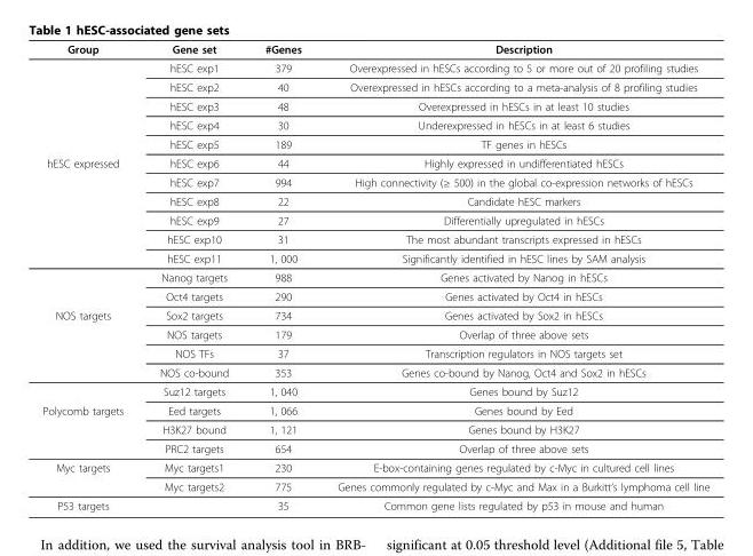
<table><thead><tr><td>Group</td><td>Gene set</td><td>#Genes</td><td>Description</td></tr></thead><tbody><tr><td></td><td>hESC exp1</td><td>379</td><td>Overexpressed in hESCs according to 5 or more out of 20 profiling studies</td></tr><tr><td></td><td>hESC exp2</td><td>40</td><td>Overexpressed in hESCs according to a meta-analysis of 8 profiling studies</td></tr><tr><td></td><td>hESC exp3</td><td>48</td><td>Overexpressed in hESCs in at least 10 studies</td></tr><tr><td></td><td>hESC exp4</td><td>30</td><td>Underexpressed in hESCs in at least 6 studies</td></tr><tr><td></td><td>hESC exp5</td><td>189</td><td>TF genes in hESCs</td></tr><tr><td rowspan="8">hESC expressed</td><td>hESC exp6</td><td>44</td><td>Highly expressed in undifferentiated hESCs</td></tr><tr><td>hESC exp7</td><td>994</td><td>High connectivity (≥ 500) in the global co-expression networks of hESCs</td></tr><tr><td>hESC exp8</td><td>22</td><td>Candidate hESC markers</td></tr><tr><td>hESC exp9</td><td>27</td><td>Differentially upregulated in hESCs</td></tr><tr><td>hESC exp10</td><td>31</td><td>The most abundant transcripts expressed in hESCs</td></tr><tr><td>hESC exp11</td><td>1, 000</td><td>Significantly identified in hESC lines by SAM analysis</td></tr><tr><td>Nanog targets</td><td>988</td><td>Genes activated by Nanog in hESCs</td></tr><tr><td>Oct4 targets</td><td>290</td><td>Genes activated by Oct4 in hESCs</td></tr><tr><td rowspan="5">NOS targets</td><td>Sox2 targets</td><td>734</td><td>Genes activated by Sox2 in hESCs</td></tr><tr><td>NOS targets</td><td>179</td><td>Overlap of three above sets</td></tr><tr><td>NOS TFs</td><td>37</td><td>Transcription regulators in NOS targets set</td></tr><tr><td>NOS co-bound</td><td>353</td><td>Genes co-bound by Nanog, Oct4 and Sox2 in hESCs</td></tr><tr><td>Suz12 targets</td><td>1, 040</td><td>Genes bound by Suz12</td></tr><tr><td rowspan="3">Polycomb targets</td><td>Eed targets</td><td>1, 066</td><td>Genes bound by Eed</td></tr><tr><td>H3K27 bound</td><td>1, 121</td><td>Genes bound by H3K27</td></tr><tr><td>PRC2 targets</td><td>654</td><td>Overlap of three above sets</td></tr><tr><td rowspan="2">Myc targets</td><td>Myc targets1</td><td>230</td><td>E-box-containing genes regulated by c-Myc in cultured cell lines</td></tr><tr><td>Myc targets2</td><td>775</td><td>Genes commonly regulated by c-Myc and Max in a Burkitt’s lymphoma cell line</td></tr><tr><td>P53 targets</td><td></td><td>35</td><td>Common gene lists regulated by p53 in mouse and human</td></tr></tbody></table>